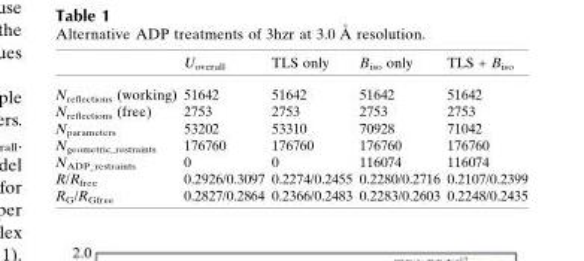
<table><thead><tr><td></td><td>U<sub>overall</sub></td><td>TLS only</td><td>B<sub>iso</sub> only</td><td>TLS + B<sub>iso</sub></td></tr></thead><tbody><tr><td>N<sub>reflections</sub> (working)</td><td>51642</td><td>51642</td><td>51642</td><td>51642</td></tr><tr><td>N<sub>reflections</sub> (free)</td><td>2753</td><td>2753</td><td>2753</td><td>2753</td></tr><tr><td>N<sub>parameters</sub></td><td>53202</td><td>53310</td><td>70928</td><td>71042</td></tr><tr><td>N<sub>geometric_restraints</sub></td><td>176760</td><td>176760</td><td>176760</td><td>176760</td></tr><tr><td>N<sub>ADP_restraints</sub></td><td>0</td><td>0</td><td>116074</td><td>116074</td></tr><tr><td>R/R<sub>free</sub></td><td>0.2926/0.3097</td><td>0.2274/0.2455</td><td>0.2280/0.2716</td><td>0.2107/0.2399</td></tr><tr><td>R<sub>G</sub>/R<sub>Gfree</sub></td><td>0.2827/0.2864</td><td>0.2366/0.2483</td><td>0.2283/0.2603</td><td>0.2248/0.2435</td></tr></tbody></table>